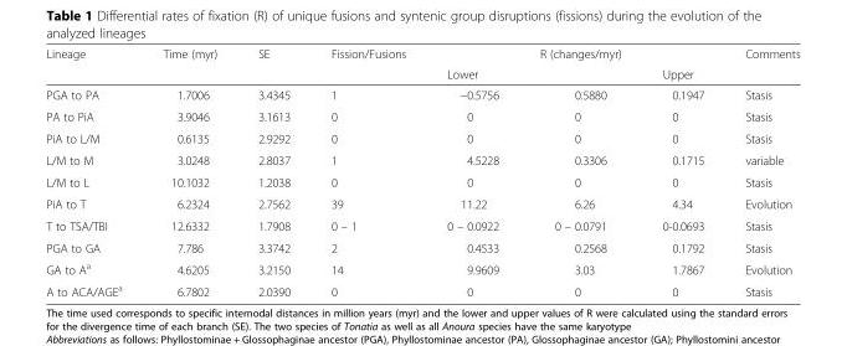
<table><thead><tr><td rowspan="2">Lineage</td><td rowspan="2">Time (myr)</td><td rowspan="2">SE</td><td rowspan="2">Fission/Fusions</td><td rowspan="2">Lower</td><td rowspan="2">R (changes/myr)</td><td rowspan="2">Upper</td><td rowspan="2">Comments</td></tr><tr></tr></thead><tbody><tr><td>PGA to PA</td><td>1.7006</td><td>3.4345</td><td>1</td><td>−0.5756</td><td>0.5880</td><td>0.1947</td><td>Stasis</td></tr><tr><td>PA to PiA</td><td>3.9046</td><td>3.1613</td><td>0</td><td>0</td><td>0</td><td>0</td><td>Stasis</td></tr><tr><td>PiA to L/M</td><td>0.6135</td><td>2.9292</td><td>0</td><td>0</td><td>0</td><td>0</td><td>Stasis</td></tr><tr><td>L/M to M</td><td>3.0248</td><td>2.8037</td><td>1</td><td>4.5228</td><td>0.3306</td><td>0.1715</td><td>variable</td></tr><tr><td>L/M to L</td><td>10.1032</td><td>1.2038</td><td>0</td><td>0</td><td>0</td><td>0</td><td>Stasis</td></tr><tr><td>PiA to T</td><td>6.2324</td><td>2.7562</td><td>39</td><td>11.22</td><td>6.26</td><td>4.34</td><td>Evolution</td></tr><tr><td>T to TSA/TBI</td><td>12.6332</td><td>1.7908</td><td>0 – 1</td><td>0 – 0.0922</td><td>0 – 0.0791</td><td>0-0.0693</td><td>Stasis</td></tr><tr><td>PGA to GA</td><td>7.786</td><td>3.3742</td><td>2</td><td>0.4533</td><td>0.2568</td><td>0.1792</td><td>Stasis</td></tr><tr><td>GA to A<sup>a</sup></td><td>4.6205</td><td>3.2150</td><td>14</td><td>9.9609</td><td>3.03</td><td>1.7867</td><td>Evolution</td></tr><tr><td>A to ACA/AGE<sup>a</sup></td><td>6.7802</td><td>2.0390</td><td>0</td><td>0</td><td>0</td><td>0</td><td>Stasis</td></tr></tbody></table>